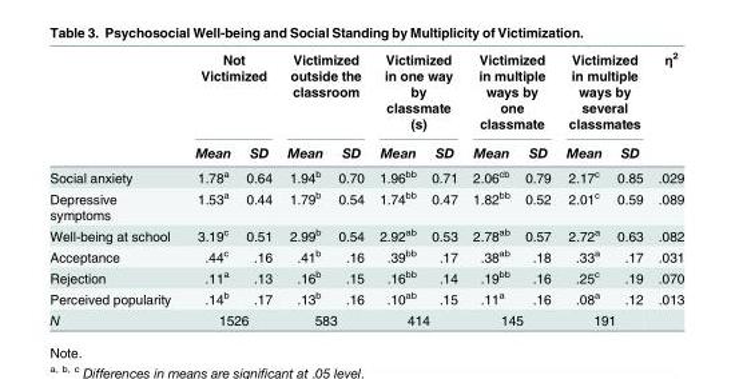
<table><thead><tr><td rowspan="2"></td><td colspan="2">Not Victimized</td><td colspan="2">Victimized outside the classroom</td><td colspan="2">Victimized in one way by classmate (s)</td><td colspan="2">Victimized in multiple ways by one classmate</td><td colspan="2">Victimized in multiple ways by several classmates</td><td rowspan="2">η<sup>2</sup></td></tr><tr><td>Mean</td><td>SD</td><td>Mean</td><td>SD</td><td>Mean</td><td>SD</td><td>Mean</td><td>SD</td><td>Mean</td><td>SD</td></tr></thead><tbody><tr><td>Social anxiety</td><td>1.78<sup>a</sup></td><td>0.64</td><td>1.94<sup>b</sup></td><td>0.70</td><td>1.96<sup>bb</sup></td><td>0.71</td><td>2.06<sup>cb</sup></td><td>0.79</td><td>2.17<sup>c</sup></td><td>0.85</td><td>.029</td></tr><tr><td>Depressive symptoms</td><td>1.53<sup>a</sup></td><td>0.44</td><td>1.79<sup>b</sup></td><td>0.54</td><td>1.74<sup>bb</sup></td><td>0.47</td><td>1.82<sup>bb</sup></td><td>0.52</td><td>2.01<sup>c</sup></td><td>0.59</td><td>.089</td></tr><tr><td>Well-being at school</td><td>3.19<sup>c</sup></td><td>0.51</td><td>2.99<sup>b</sup></td><td>0.54</td><td>2.92<sup>ab</sup></td><td>0.53</td><td>2.78<sup>ab</sup></td><td>0.57</td><td>2.72<sup>a</sup></td><td>0.63</td><td>.082</td></tr><tr><td>Acceptance</td><td>.44<sup>c</sup></td><td>.16</td><td>.41<sup>b</sup></td><td>.16</td><td>.39<sup>bb</sup></td><td>.17</td><td>.38<sup>ab</sup></td><td>.18</td><td>.33<sup>a</sup></td><td>.17</td><td>.031</td></tr><tr><td>Rejection</td><td>.11<sup>a</sup></td><td>.13</td><td>.16<sup>b</sup></td><td>.15</td><td>.16<sup>bb</sup></td><td>.14</td><td>.19<sup>bb</sup></td><td>.16</td><td>.25<sup>c</sup></td><td>.19</td><td>.070</td></tr><tr><td>Perceived popularity</td><td>.14<sup>b</sup></td><td>.17</td><td>.13<sup>b</sup></td><td>.16</td><td>.10<sup>ab</sup></td><td>.15</td><td>.11<sup>a</sup></td><td>.16</td><td>.08<sup>a</sup></td><td>.12</td><td>.013</td></tr><tr><td>N</td><td colspan="2">1526</td><td colspan="2">583</td><td colspan="2">414</td><td colspan="2">145</td><td colspan="2">191</td><td></td></tr></tbody></table>